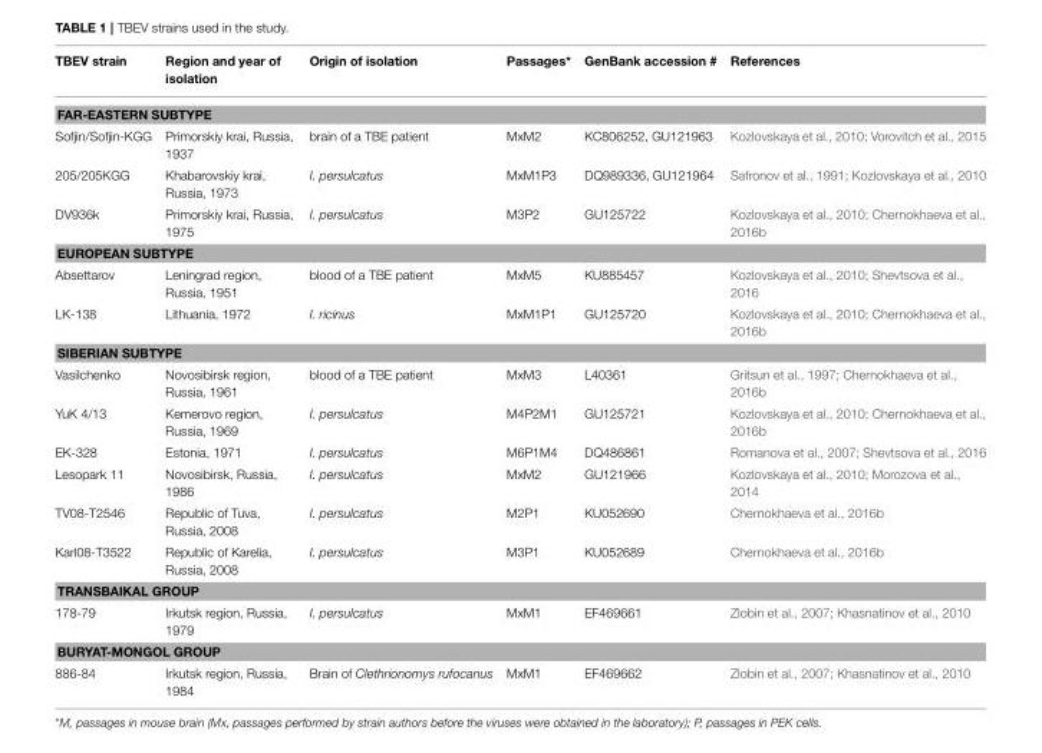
<table><thead><tr><td>TBEV strain</td><td>Region and year of isolation</td><td>Origin of isolation</td><td>Passages*</td><td>GenBank accession #</td><td>References</td></tr></thead><tbody><tr><td colspan="6">FAR-EASTERN SUBTYPE</td></tr><tr><td>Sofjin/Sofjin-KGG</td><td>Primorskiy krai, Russia, 1937</td><td>brain of a TBE patient</td><td>MxM2</td><td>KC806252, GU121963</td><td>Kozlovskaya et al., 2010; Vorovitch et al., 2015</td></tr><tr><td>205/205KGG</td><td>Khabarovskiy krai, Russia, 1973</td><td>I. persulcatus</td><td>MxM1P3</td><td>DQ989336, GU121964</td><td>Safronov et al., 1991; Kozlovskaya et al., 2010</td></tr><tr><td>DV936k</td><td>Primorskiy krai, Russia, 1975</td><td>I. persulcatus</td><td>M3P2</td><td>GU125722</td><td>Kozlovskaya et al., 2010; Chernokhaeva et al., 2016b</td></tr><tr><td colspan="6">EUROPEAN SUBTYPE</td></tr><tr><td>Absettarov</td><td>Leningrad region, Russia, 1951</td><td>blood of a TBE patient</td><td>MxM5</td><td>KU885457</td><td>Kozlovskaya et al., 2010; Shevtsova et al., 2016</td></tr><tr><td>LK-138</td><td>Lithuania, 1972</td><td>I. ricinus</td><td>MxM1P1</td><td>GU125720</td><td>Kozlovskaya et al., 2010; Chernokhaeva et al., 2016b</td></tr><tr><td colspan="6">SIBERIAN SUBTYPE</td></tr><tr><td>Vasilchenko</td><td>Novosibirsk region, Russia, 1961</td><td>blood of a TBE patient</td><td>MxM3</td><td>L40361</td><td>Gritsun et al., 1997; Chernokhaeva et al., 2016b</td></tr><tr><td>YuK 4/13</td><td>Kemerovo region, Russia, 1969</td><td>I. persulcatus</td><td>M4P2M1</td><td>GU125721</td><td>Kozlovskaya et al., 2010; Chernokhaeva et al., 2016b</td></tr><tr><td>EK-328</td><td>Estonia, 1971</td><td>I. persulcatus</td><td>M6P1M4</td><td>DQ486861</td><td>Romanova et al., 2007; Shevtsova et al., 2016</td></tr><tr><td>Lesopark 11</td><td>Novosibirsk, Russia, 1986</td><td>I. persulcatus</td><td>MxM2</td><td>GU121966</td><td>Kozlovskaya et al., 2010; Morozova et al., 2014</td></tr><tr><td>TV08-T2546</td><td>Republic of Tuva, Russia, 2008</td><td>I. persulcatus</td><td>M2P1</td><td>KU052690</td><td>Chernokhaeva et al., 2016b</td></tr><tr><td>Karl08-T3522</td><td>Republic of Karelia, Russia, 2008</td><td>I. persulcatus</td><td>M3P1</td><td>KU052689</td><td>Chernokhaeva et al., 2016b</td></tr><tr><td colspan="6">TRANSBAIKAL GROUP</td></tr><tr><td>178-79</td><td>Irkutsk region, Russia, 1979</td><td>I. persulcatus</td><td>MxM1</td><td>EF469661</td><td>Zlobin et al., 2007; Khasnatinov et al., 2010</td></tr><tr><td colspan="6">BURYAT-MONGOL GROUP</td></tr><tr><td>886-84</td><td>Irkutsk region, Russia, 1984</td><td>Brain of Clethrionomys rufocanus</td><td>MxM1</td><td>EF469662</td><td>Zlobin et al., 2007; Khasnatinov et al., 2010</td></tr></tbody></table>